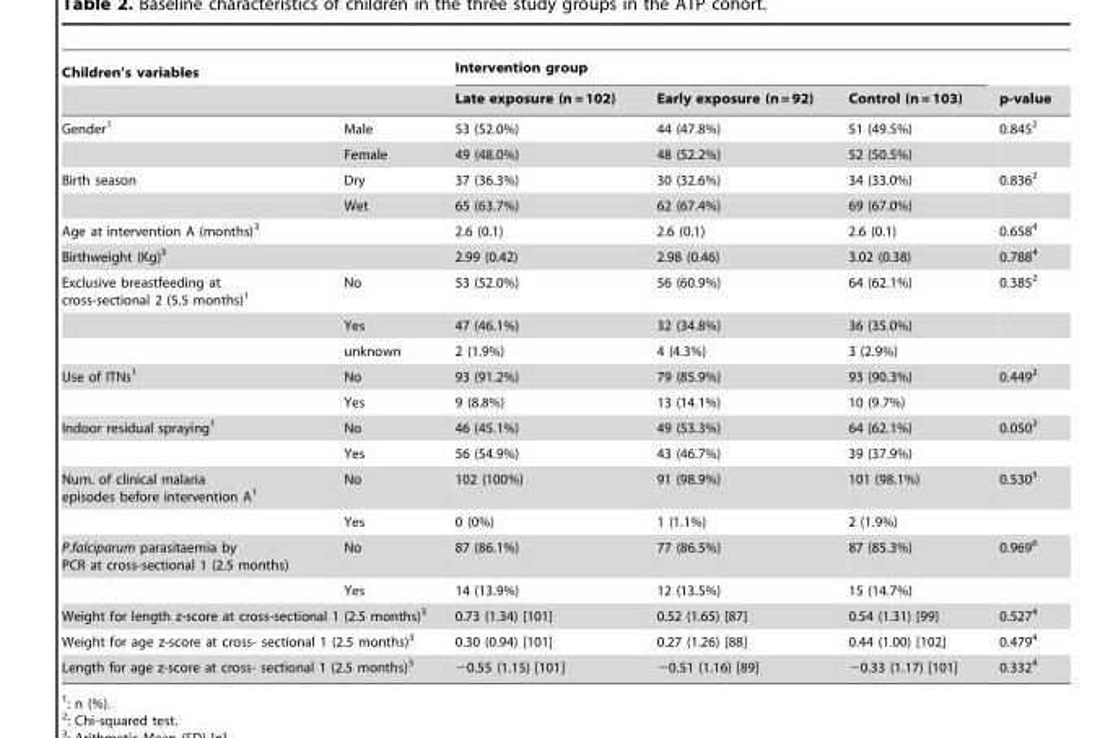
<table><thead><tr><td colspan="2">Children’s variables</td><td colspan="3">Intervention group</td><td rowspan="2">p-value</td></tr><tr><td></td><td></td><td>Late exposure (n = 102)</td><td>Early exposure (n = 92)</td><td>Control (n = 103)</td></tr></thead><tbody><tr><td rowspan="2">Gender<sup>1</sup></td><td>Male</td><td>53 (52.0%)</td><td>44 (47.8%)</td><td>51 (49.5%)</td><td>0.845<sup>2</sup></td></tr><tr><td>Female</td><td>49 (48.0%)</td><td>48 (52.2%)</td><td>52 (50.5%)</td><td></td></tr><tr><td rowspan="2">Birth season</td><td>Dry</td><td>37 (36.3%)</td><td>30 (32.6%)</td><td>34 (33.0%)</td><td>0.836<sup>2</sup></td></tr><tr><td>Wet</td><td>65 (63.7%)</td><td>62 (67.4%)</td><td>69 (67.0%)</td><td></td></tr><tr><td colspan="2">Age at intervention A (months)<sup>3</sup></td><td>2.6 (0.1)</td><td>2.6 (0.1)</td><td>2.6 (0.1)</td><td>0.658<sup>4</sup></td></tr><tr><td colspan="2">Birthweight (Kg)<sup>3</sup></td><td>2.99 (0.42)</td><td>2.98 (0.46)</td><td>3.02 (0.38)</td><td>0.788<sup>4</sup></td></tr><tr><td rowspan="3">Exclusive breastfeeding at cross-sectional 2 (5.5 months)<sup>1</sup></td><td>No</td><td>53 (52.0%)</td><td>56 (60.9%)</td><td>64 (62.1%)</td><td>0.385<sup>2</sup></td></tr><tr><td>Yes</td><td>47 (46.1%)</td><td>32 (34.8%)</td><td>36 (35.0%)</td><td></td></tr><tr><td>unknown</td><td>2 (1.9%)</td><td>4 (4.3%)</td><td>3 (2.9%)</td><td></td></tr><tr><td rowspan="2">Use of ITNs<sup>1</sup></td><td>No</td><td>93 (91.2%)</td><td>79 (85.9%)</td><td>93 (90.3%)</td><td>0.449<sup>2</sup></td></tr><tr><td>Yes</td><td>9 (8.8%)</td><td>13 (14.1%)</td><td>10 (9.7%)</td><td></td></tr><tr><td rowspan="2">Indoor residual spraying<sup>1</sup></td><td>No</td><td>46 (45.1%)</td><td>49 (53.3%)</td><td>64 (62.1%)</td><td>0.050<sup>2</sup></td></tr><tr><td>Yes</td><td>56 (54.9%)</td><td>43 (46.7%)</td><td>39 (37.9%)</td><td></td></tr><tr><td rowspan="2">Num. of clinical malaria episodes before intervention A<sup>1</sup></td><td>No</td><td>102 (100%)</td><td>91 (98.9%)</td><td>101 (98.1%)</td><td>0.530<sup>5</sup></td></tr><tr><td>Yes</td><td>0 (0%)</td><td>1 (1.1%)</td><td>2 (1.9%)</td><td></td></tr><tr><td rowspan="2">P.falciparum parasitaemia by PCR at cross-sectional 1 (2.5 months)</td><td>No</td><td>87 (86.1%)</td><td>77 (86.5%)</td><td>87 (85.3%)</td><td>0.969<sup>6</sup></td></tr><tr><td>Yes</td><td>14 (13.9%)</td><td>12 (13.5%)</td><td>15 (14.7%)</td><td></td></tr><tr><td colspan="2">Weight for length z-score at cross-sectional 1 (2.5 months)<sup>3</sup></td><td>0.73 (1.34) [101]</td><td>0.52 (1.65) [87]</td><td>0.54 (1.31) [99]</td><td>0.527<sup>4</sup></td></tr><tr><td colspan="2">Weight for age z-score at cross- sectional 1 (2.5 months)<sup>3</sup></td><td>0.30 (0.94) [101]</td><td>0.27 (1.26) [88]</td><td>0.44 (1.00) [102]</td><td>0.479<sup>4</sup></td></tr><tr><td colspan="2">Length for age z-score at cross- sectional 1 (2.5 months)<sup>3</sup></td><td>−0.55 (1.15) [101]</td><td>−0.51 (1.16) [89]</td><td>−0.33 (1.17) [101]</td><td>0.332<sup>4</sup></td></tr></tbody></table>